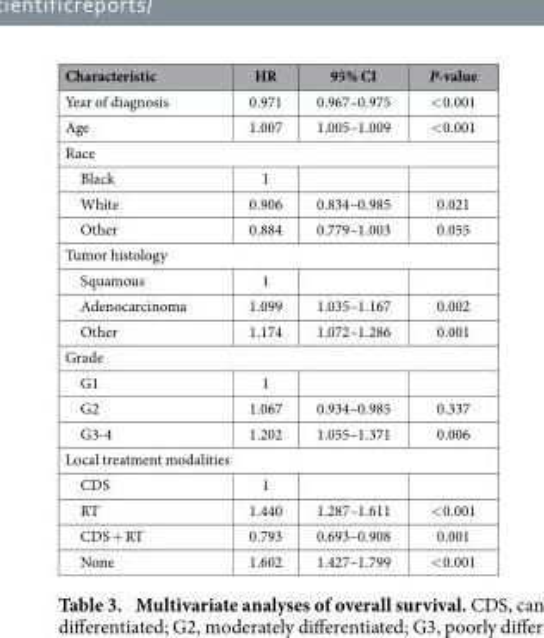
<table><thead><tr><td>Characteristic</td><td>HR</td><td>95% CI</td><td>P-value</td></tr></thead><tbody><tr><td>Year of diagnosis</td><td>0.971</td><td>0.967–0.975</td><td>&lt; 0.001</td></tr><tr><td>Age</td><td>1.007</td><td>1.005–1.009</td><td>&lt; 0.001</td></tr><tr><td colspan="4">Race</td></tr><tr><td>Black</td><td>1</td><td></td><td></td></tr><tr><td>White</td><td>0.906</td><td>0.834–0.985</td><td>0.021</td></tr><tr><td>Other</td><td>0.884</td><td>0.779–1.003</td><td>0.055</td></tr><tr><td colspan="4">Tumor histology</td></tr><tr><td>Squamous</td><td>1</td><td></td><td></td></tr><tr><td>Adenocarcinoma</td><td>1.099</td><td>1.035–1.167</td><td>0.002</td></tr><tr><td>Other</td><td>1.174</td><td>1.072–1.286</td><td>0.001</td></tr><tr><td colspan="4">Grade</td></tr><tr><td>G1</td><td>1</td><td></td><td></td></tr><tr><td>G2</td><td>1.067</td><td>0.934–0.985</td><td>0.337</td></tr><tr><td>G3-4</td><td>1.202</td><td>1.055–1.371</td><td>0.006</td></tr><tr><td colspan="4">Local treatment modalities</td></tr><tr><td>CDS</td><td>1</td><td></td><td></td></tr><tr><td>RT</td><td>1.440</td><td>1.287–1.611</td><td>&lt; 0.001</td></tr><tr><td>CDS + RT</td><td>0.793</td><td>0.693–0.908</td><td>0.001</td></tr><tr><td>None</td><td>1.602</td><td>1.427–1.799</td><td>&lt; 0.001</td></tr></tbody></table>